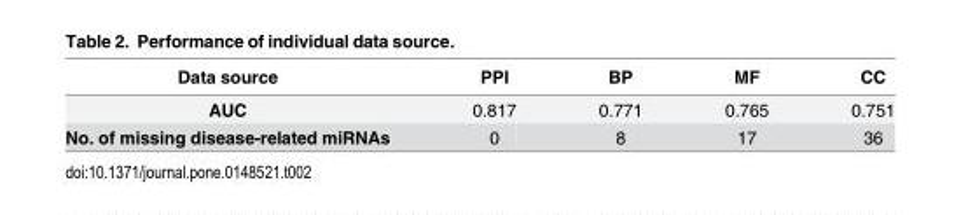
<table><thead><tr><td>Data source</td><td>PPI</td><td>BP</td><td>MF</td><td>CC</td></tr></thead><tbody><tr><td>AUC</td><td>0.817</td><td>0.771</td><td>0.765</td><td>0.751</td></tr><tr><td>No. of missing disease-related miRNAs</td><td>0</td><td>8</td><td>17</td><td>36</td></tr></tbody></table>